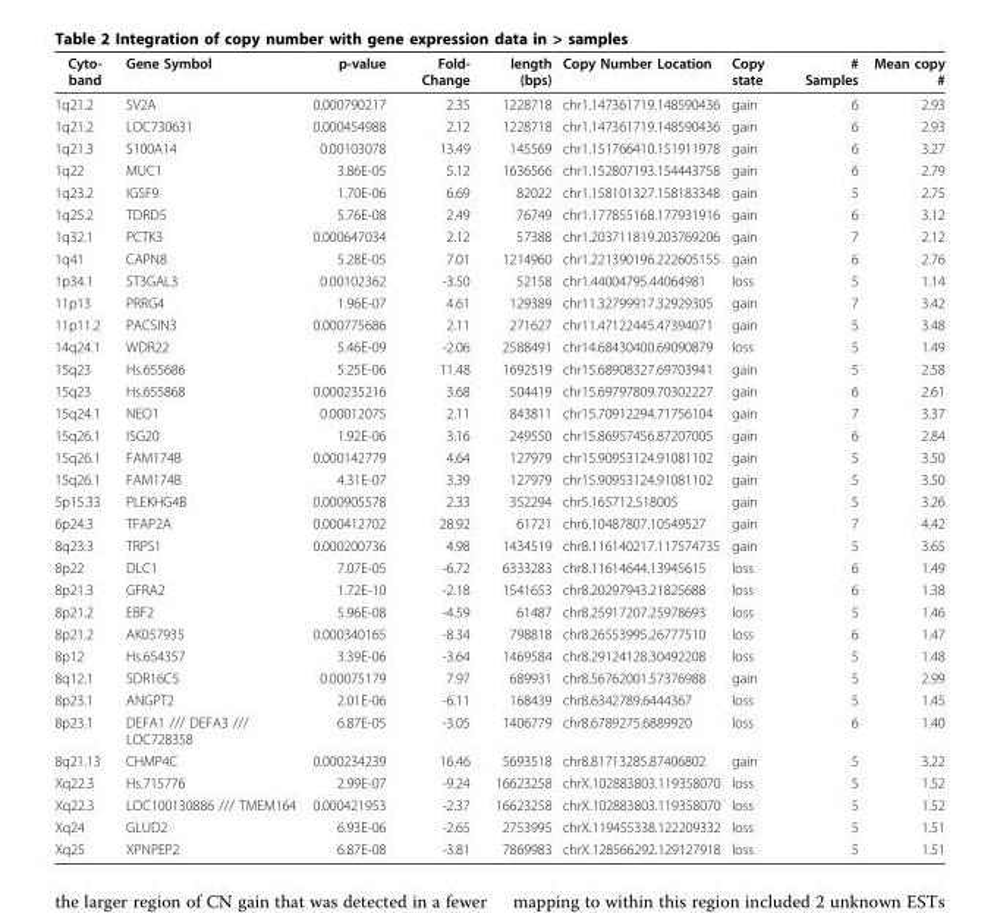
<table><thead><tr><td>Cyto- band</td><td>Gene Symbol</td><td>p-value</td><td>Fold- Change</td><td>length (bps)</td><td>Copy Number Location</td><td>Copy state</td><td># Samples</td><td>Mean copy #</td></tr></thead><tbody><tr><td>1q21.2</td><td>SV2A</td><td>0.000790217</td><td>2.35</td><td>1228718</td><td>chr1.147361719.148590436</td><td>gain</td><td>6</td><td>2.93</td></tr><tr><td>1q21.2</td><td>LOC730631</td><td>0.000454988</td><td>2.12</td><td>1228718</td><td>chr1.147361719.148590436</td><td>gain</td><td>6</td><td>2.93</td></tr><tr><td>1q21.3</td><td>S100A14</td><td>0.00103078</td><td>13.49</td><td>145569</td><td>chr1.151766410.151911978</td><td>gain</td><td>6</td><td>3.27</td></tr><tr><td>1q22</td><td>MUC1</td><td>3.86E-05</td><td>5.12</td><td>1636566</td><td>chr1.152807193.154443758</td><td>gain</td><td>6</td><td>2.79</td></tr><tr><td>1q23.2</td><td>IGSF9</td><td>1.70E-06</td><td>6.69</td><td>82022</td><td>chr1.158101327.158183348</td><td>gain</td><td>5</td><td>2.75</td></tr><tr><td>1q25.2</td><td>TDRD5</td><td>5.76E-08</td><td>2.49</td><td>76749</td><td>chr1.177855168.177931916</td><td>gain</td><td>6</td><td>3.12</td></tr><tr><td>1q32.1</td><td>PCTK3</td><td>0.000647034</td><td>2.12</td><td>57388</td><td>chr1.203711819.203769206</td><td>gain</td><td>7</td><td>2.12</td></tr><tr><td>1q41</td><td>CAPN8</td><td>5.28E-05</td><td>7.01</td><td>1214960</td><td>chr1.221390196.222605155</td><td>gain</td><td>6</td><td>2.76</td></tr><tr><td>1p34.1</td><td>ST3GAL3</td><td>0.00102362</td><td>-3.50</td><td>52158</td><td>chr1.44004795.44064981</td><td>loss</td><td>5</td><td>1.14</td></tr><tr><td>11p13</td><td>PRRG4</td><td>1.96E-07</td><td>4.61</td><td>129389</td><td>chr11.32799917.32929305</td><td>gain</td><td>7</td><td>3.42</td></tr><tr><td>11p11.2</td><td>PACSIN3</td><td>0.000775686</td><td>2.11</td><td>271627</td><td>chr11.47122445.47394071</td><td>gain</td><td>5</td><td>3.48</td></tr><tr><td>14q24.1</td><td>WDR22</td><td>5.46E-09</td><td>-2.06</td><td>2588491</td><td>chr14.68430400.69090879</td><td>loss</td><td>5</td><td>1.49</td></tr><tr><td>15q23</td><td>Hs.655686</td><td>5.25E-06</td><td>11.48</td><td>1692519</td><td>chr15.68908327.69703941</td><td>gain</td><td>5</td><td>2.58</td></tr><tr><td>15q23</td><td>Hs.655868</td><td>0.000235216</td><td>3.68</td><td>504419</td><td>chr15.69797809.70302227</td><td>gain</td><td>6</td><td>2.61</td></tr><tr><td>15q24.1</td><td>NEO1</td><td>0.00012075</td><td>2.11</td><td>843811</td><td>chr15.70912294.71756104</td><td>gain</td><td>7</td><td>3.37</td></tr><tr><td>15q26.1</td><td>ISG20</td><td>1.92E-06</td><td>3.16</td><td>249550</td><td>chr15.86957456.87207005</td><td>gain</td><td>6</td><td>2.84</td></tr><tr><td>15q26.1</td><td>FAM174B</td><td>0.000142779</td><td>4.64</td><td>127979</td><td>chr15.90953124.91081102</td><td>gain</td><td>5</td><td>3.50</td></tr><tr><td>15q26.1</td><td>FAM174B</td><td>4.31E-07</td><td>3.39</td><td>127979</td><td>chr15.90953124.91081102</td><td>gain</td><td>5</td><td>3.50</td></tr><tr><td>5p15.33</td><td>PLEKHG4B</td><td>0.000905578</td><td>2.33</td><td>352294</td><td>chr5.165712.518005</td><td>gain</td><td>5</td><td>3.26</td></tr><tr><td>6p24.3</td><td>TFAP2A</td><td>0.000412702</td><td>28.92</td><td>61721</td><td>chr6.10487807.10549527</td><td>gain</td><td>7</td><td>4.42</td></tr><tr><td>8q23.3</td><td>TRPS1</td><td>0.000200736</td><td>4.98</td><td>1434519</td><td>chr8.116140217.117574735</td><td>gain</td><td>5</td><td>3.65</td></tr><tr><td>8p22</td><td>DLC1</td><td>7.07E-05</td><td>-6.72</td><td>6333283</td><td>chr8.11614644.13945615</td><td>loss</td><td>6</td><td>1.49</td></tr><tr><td>8p21.3</td><td>GFRA2</td><td>1.72E-10</td><td>-2.18</td><td>1541653</td><td>chr8.20297943.21825688</td><td>loss</td><td>6</td><td>1.38</td></tr><tr><td>8p21.2</td><td>EBF2</td><td>5.96E-08</td><td>-4.59</td><td>61487</td><td>chr8.25917207.25978693</td><td>loss</td><td>5</td><td>1.46</td></tr><tr><td>8p21.2</td><td>AK057935</td><td>0.000340165</td><td>-8.34</td><td>798818</td><td>chr8.26553995.26777510</td><td>loss</td><td>6</td><td>1.47</td></tr><tr><td>8p12</td><td>Hs.654357</td><td>3.39E-06</td><td>-3.64</td><td>1469584</td><td>chr8.29124128.30492208</td><td>loss</td><td>5</td><td>1.48</td></tr><tr><td>8q12.1</td><td>SDR16C5</td><td>0.00075179</td><td>7.97</td><td>689931</td><td>chr8.56762001.57376988</td><td>gain</td><td>5</td><td>2.99</td></tr><tr><td>8p23.1</td><td>ANGPT2</td><td>2.01E-06</td><td>-6.11</td><td>168439</td><td>chr8.6342789.6444367</td><td>loss</td><td>5</td><td>1.45</td></tr><tr><td>8p23.1</td><td>DEFA1 /// DEFA3 /// LOC728358</td><td>6.87E-05</td><td>-3.05</td><td>1406779</td><td>chr8.6789275.6889920</td><td>loss</td><td>6</td><td>1.40</td></tr><tr><td>8q21.13</td><td>CHMP4C</td><td>0.000234239</td><td>16.46</td><td>5693518</td><td>chr8.81713285.87406802</td><td>gain</td><td>5</td><td>3.22</td></tr><tr><td>Xq22.3</td><td>Hs.715776</td><td>2.99E-07</td><td>-9.24</td><td>16623258</td><td>chrX.102883803.119358070</td><td>loss</td><td>5</td><td>1.52</td></tr><tr><td>Xq22.3</td><td>LOC100130886 /// TMEM164</td><td>0.000421953</td><td>-2.37</td><td>16623258</td><td>chrX.102883803.119358070</td><td>loss</td><td>5</td><td>1.52</td></tr><tr><td>Xq24</td><td>GLUD2</td><td>6.93E-06</td><td>-2.65</td><td>2753995</td><td>chrX.119455338.122209332</td><td>loss</td><td>5</td><td>1.51</td></tr><tr><td>Xq25</td><td>XPNPEP2</td><td>6.87E-08</td><td>-3.81</td><td>7869983</td><td>chrX.128566292.129127918</td><td>loss</td><td>5</td><td>1.51</td></tr></tbody></table>